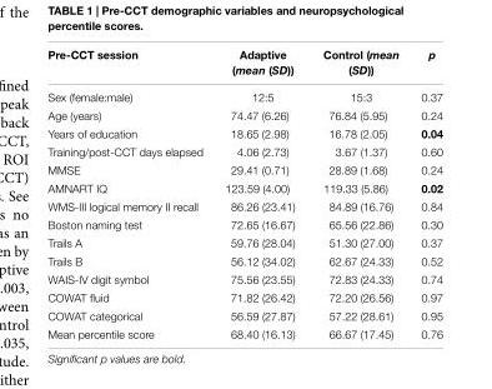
<table><thead><tr><td>Pre-CCT session</td><td>Adaptive (mean (SD))</td><td>Control (mean (SD))</td><td>p</td></tr></thead><tbody><tr><td>Sex (female:male)</td><td>12:5</td><td>15:3</td><td>0.37</td></tr><tr><td>Age (years)</td><td>74.47 (6.26)</td><td>76.84 (5.95)</td><td>0.24</td></tr><tr><td>Years of education</td><td>18.65 (2.98)</td><td>16.78 (2.05)</td><td>0.04</td></tr><tr><td>Training/post-CCT days elapsed</td><td>4.06 (2.73)</td><td>3.67 (1.37)</td><td>0.60</td></tr><tr><td>MMSE</td><td>29.41 (0.71)</td><td>28.89 (1.68)</td><td>0.24</td></tr><tr><td>AMNART IQ</td><td>123.59 (4.00)</td><td>119.33 (5.86)</td><td>0.02</td></tr><tr><td>WMS-III logical memory II recall</td><td>86.26 (23.41)</td><td>84.89 (16.76)</td><td>0.84</td></tr><tr><td>Boston naming test</td><td>72.65 (16.67)</td><td>65.56 (22.86)</td><td>0.30</td></tr><tr><td>Trails A</td><td>59.76 (28.04)</td><td>51.30 (27.00)</td><td>0.37</td></tr><tr><td>Trails B</td><td>56.12 (34.02)</td><td>62.67 (24.33)</td><td>0.52</td></tr><tr><td>WAIS-IV digit symbol</td><td>75.56 (23.55)</td><td>72.83 (24.33)</td><td>0.74</td></tr><tr><td>COWAT fluid</td><td>71.82 (26.42)</td><td>72.20 (26.56)</td><td>0.97</td></tr><tr><td>COWAT categorical</td><td>56.59 (27.87)</td><td>57.22 (28.61)</td><td>0.95</td></tr><tr><td>Mean percentile score</td><td>68.40 (16.13)</td><td>66.67 (17.45)</td><td>0.76</td></tr></tbody></table>